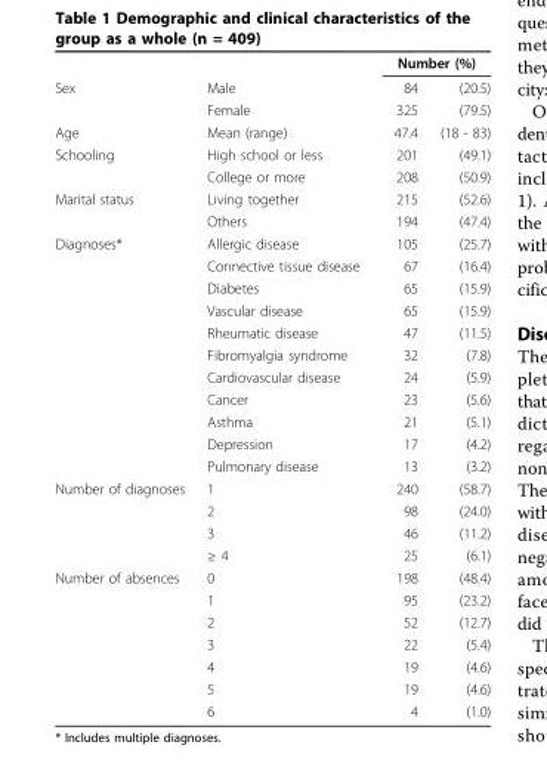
<table><thead><tr><td rowspan="2">Sex</td><td rowspan="2">Male</td><td colspan="2">Number (%)</td></tr><tr><td>84</td><td>(20.5)</td></tr></thead><tbody><tr><td></td><td>Female</td><td>325</td><td>(79.5)</td></tr><tr><td>Age</td><td>Mean (range)</td><td>47.4</td><td>(18 - 83)</td></tr><tr><td rowspan="2">Schooling</td><td>High school or less</td><td>201</td><td>(49.1)</td></tr><tr><td>College or more</td><td>208</td><td>(50.9)</td></tr><tr><td rowspan="2">Marital status</td><td>Living together</td><td>215</td><td>(52.6)</td></tr><tr><td>Others</td><td>194</td><td>(47.4)</td></tr><tr><td rowspan="11">Diagnoses*</td><td>Allergic disease</td><td>105</td><td>(25.7)</td></tr><tr><td>Connective tissue disease</td><td>67</td><td>(16.4)</td></tr><tr><td>Diabetes</td><td>65</td><td>(15.9)</td></tr><tr><td>Vascular disease</td><td>65</td><td>(15.9)</td></tr><tr><td>Rheumatic disease</td><td>47</td><td>(11.5)</td></tr><tr><td>Fibromyalgia syndrome</td><td>32</td><td>(7.8)</td></tr><tr><td>Cardiovascular disease</td><td>24</td><td>(5.9)</td></tr><tr><td>Cancer</td><td>23</td><td>(5.6)</td></tr><tr><td>Asthma</td><td>21</td><td>(5.1)</td></tr><tr><td>Depression</td><td>17</td><td>(4.2)</td></tr><tr><td>Pulmonary disease</td><td>13</td><td>(3.2)</td></tr><tr><td rowspan="4">Number of diagnoses</td><td>1</td><td>240</td><td>(58.7)</td></tr><tr><td>2</td><td>98</td><td>(24.0)</td></tr><tr><td>3</td><td>46</td><td>(11.2)</td></tr><tr><td>≥ 4</td><td>25</td><td>(6.1)</td></tr><tr><td rowspan="7">Number of absences</td><td>0</td><td>198</td><td>(48.4)</td></tr><tr><td>1</td><td>95</td><td>(23.2)</td></tr><tr><td>2</td><td>52</td><td>(12.7)</td></tr><tr><td>3</td><td>22</td><td>(5.4)</td></tr><tr><td>4</td><td>19</td><td>(4.6)</td></tr><tr><td>5</td><td>19</td><td>(4.6)</td></tr><tr><td>6</td><td>4</td><td>(1.0)</td></tr></tbody></table>